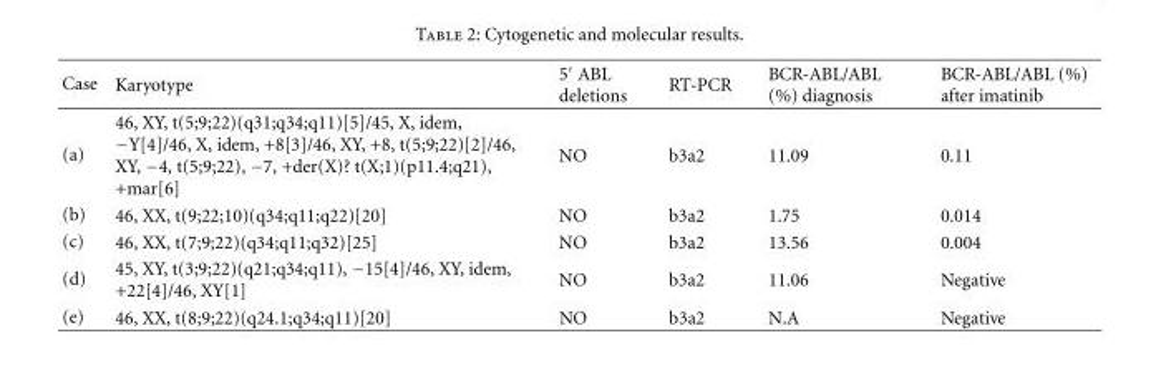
<table><thead><tr><td>Case</td><td>Karyotype</td><td>5′ ABL deletions</td><td>RT-PCR</td><td>BCR-ABL/ABL (%) diagnosis</td><td>BCR-ABL/ABL (%) after imatinib</td></tr></thead><tbody><tr><td>(a)</td><td>46, XY, t(5;9;22)(q31;q34;q11)[5]/45, X, idem, −Y[4]/46, X, idem, +8[3]/46, XY, +8, t(5;9;22)[2]/46, XY, −4, t(5;9;22), −7, +der(X)? t(X;1)(p11.4;q21), +mar[6]</td><td>NO</td><td>b3a2</td><td>11.09</td><td>0.11</td></tr><tr><td>(b)</td><td>46, XX, t(9;22;10)(q34;q11;q22)[20]</td><td>NO</td><td>b3a2</td><td>1.75</td><td>0.014</td></tr><tr><td>(c)</td><td>46, XX, t(7;9;22)(q34;q11;q32)[25]</td><td>NO</td><td>b3a2</td><td>13.56</td><td>0.004</td></tr><tr><td>(d)</td><td>45, XY, t(3;9;22)(q21;q34;q11), −15[4]/46, XY, idem, +22[4]/46, XY[1]</td><td>NO</td><td>b3a2</td><td>11.06</td><td>Negative</td></tr><tr><td>(e)</td><td>46, XX, t(8;9;22)(q24.1;q34;q11)[20]</td><td>NO</td><td>b3a2</td><td>N.A</td><td>Negative</td></tr></tbody></table>